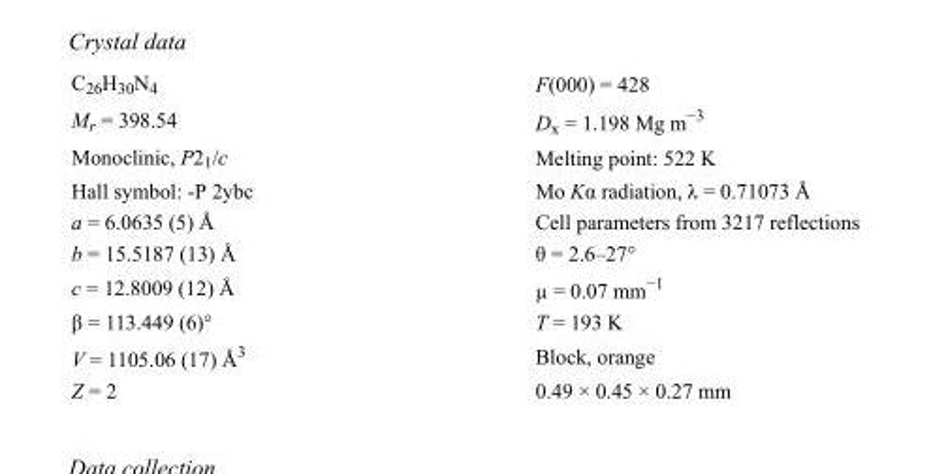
<table><tbody><tr><td>C<sub>26</sub>H<sub>30</sub>N<sub>4</sub></td><td>F(000) = 428</td></tr><tr><td>M<sub>r</sub> = 398.54</td><td>D<sub>x</sub> = 1.198 Mg m<sup>−3</sup></td></tr><tr><td>Monoclinic, P2<sub>1</sub>/c</td><td>Melting point: 522 K</td></tr><tr><td>Hall symbol: -P 2ybc</td><td>Mo Kα radiation, λ = 0.71073 Å</td></tr><tr><td>a = 6.0635 (5) Å</td><td>Cell parameters from 3217 reflections</td></tr><tr><td>b = 15.5187 (13) Å</td><td>θ = 2.6–27°</td></tr><tr><td>c = 12.8009 (12) Å</td><td>µ = 0.07 mm<sup>−1</sup></td></tr><tr><td>β = 113.449 (6)°</td><td>T = 193 K</td></tr><tr><td>V = 1105.06 (17) Å<sup>3</sup></td><td>Block, orange</td></tr><tr><td>Z = 2</td><td>0.49 × 0.45 × 0.27 mm</td></tr></tbody></table>